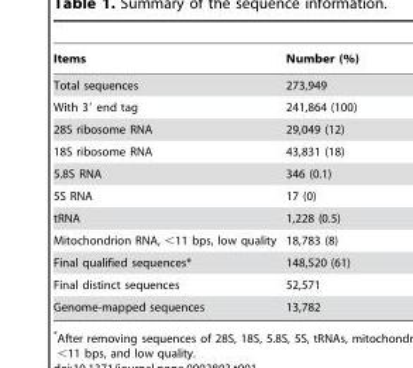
<table><thead><tr><td>Items</td><td>Number (%)</td></tr></thead><tbody><tr><td>Total sequences</td><td>273,949</td></tr><tr><td>With 3′ end tag</td><td>241,864 (100)</td></tr><tr><td>28S ribosome RNA</td><td>29,049 (12)</td></tr><tr><td>18S ribosome RNA</td><td>43,831 (18)</td></tr><tr><td>5.8S RNA</td><td>346 (0.1)</td></tr><tr><td>5S RNA</td><td>17 (0)</td></tr><tr><td>tRNA</td><td>1,228 (0.5)</td></tr><tr><td>Mitochondrion RNA, &lt;11 bps, low quality</td><td>18,783 (8)</td></tr><tr><td>Final qualified sequences*</td><td>148,520 (61)</td></tr><tr><td>Final distinct sequences</td><td>52,571</td></tr><tr><td>Genome-mapped sequences</td><td>13,782</td></tr></tbody></table>